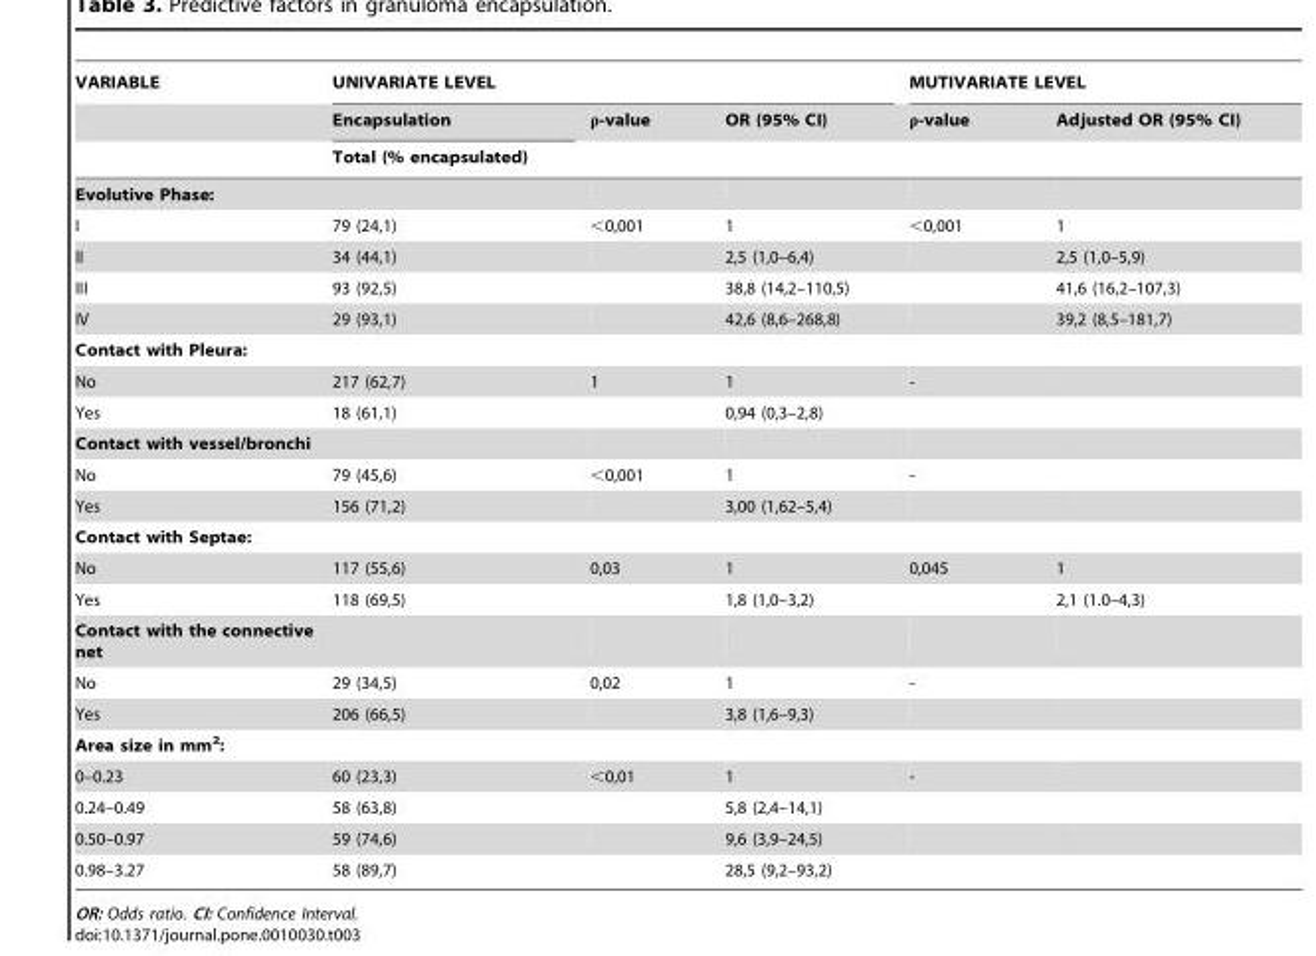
<table><thead><tr><td rowspan="3">VARIABLE</td><td colspan="3">UNIVARIATE LEVEL</td><td colspan="2">MUTIVARIATE LEVEL</td></tr><tr><td rowspan="2">Encapsulation Total (% encapsulated)</td><td rowspan="2">ρ-value</td><td rowspan="2">OR (95% CI)</td><td rowspan="2">ρ-value</td><td rowspan="2">Adjusted OR (95% CI)</td></tr><tr></tr></thead><tbody><tr><td colspan="6">Evolutive Phase:</td></tr><tr><td>I</td><td>79 (24,1)</td><td>&lt;0,001</td><td>1</td><td>&lt;0,001</td><td>1</td></tr><tr><td>II</td><td>34 (44,1)</td><td></td><td>2,5 (1,0–6,4)</td><td></td><td>2,5 (1,0–5,9)</td></tr><tr><td>III</td><td>93 (92,5)</td><td></td><td>38,8 (14,2–110,5)</td><td></td><td>41,6 (16,2–107,3)</td></tr><tr><td>IV</td><td>29 (93,1)</td><td></td><td>42,6 (8,6–268,8)</td><td></td><td>39,2 (8,5–181,7)</td></tr><tr><td colspan="6">Contact with Pleura:</td></tr><tr><td>No</td><td>217 (62,7)</td><td>1</td><td>1</td><td>-</td><td></td></tr><tr><td>Yes</td><td>18 (61,1)</td><td></td><td>0,94 (0,3–2,8)</td><td></td><td></td></tr><tr><td colspan="6">Contact with vessel/bronchi</td></tr><tr><td>No</td><td>79 (45,6)</td><td>&lt;0,001</td><td>1</td><td>-</td><td></td></tr><tr><td>Yes</td><td>156 (71,2)</td><td></td><td>3,00 (1,62–5,4)</td><td></td><td></td></tr><tr><td colspan="6">Contact with Septae:</td></tr><tr><td>No</td><td>117 (55,6)</td><td>0,03</td><td>1</td><td>0,045</td><td>1</td></tr><tr><td>Yes</td><td>118 (69,5)</td><td></td><td>1,8 (1,0–3,2)</td><td></td><td>2,1 (1.0–4,3)</td></tr><tr><td colspan="6">Contact with the connective net</td></tr><tr><td>No</td><td>29 (34,5)</td><td>0,02</td><td>1</td><td>-</td><td></td></tr><tr><td>Yes</td><td>206 (66,5)</td><td></td><td>3,8 (1,6–9,3)</td><td></td><td></td></tr><tr><td colspan="6">Area size in mm<sup>2</sup>:</td></tr><tr><td>0–0.23</td><td>60 (23,3)</td><td>&lt;0,01</td><td>1</td><td>-</td><td></td></tr><tr><td>0.24–0.49</td><td>58 (63,8)</td><td></td><td>5,8 (2,4–14,1)</td><td></td><td></td></tr><tr><td>0.50–0.97</td><td>59 (74,6)</td><td></td><td>9,6 (3,9–24,5)</td><td></td><td></td></tr><tr><td>0.98–3.27</td><td>58 (89,7)</td><td></td><td>28,5 (9,2–93,2)</td><td></td><td></td></tr></tbody></table>